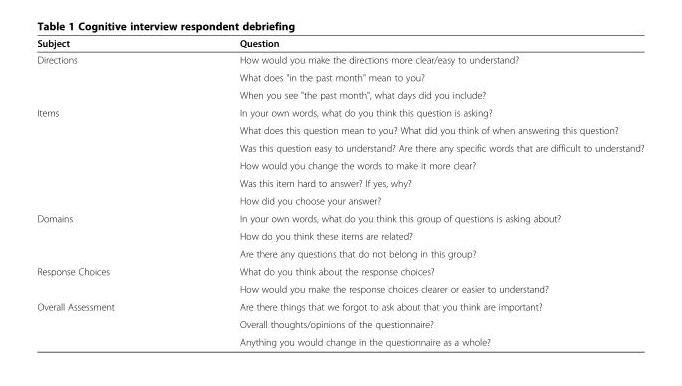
<table><thead><tr><td>Subject</td><td>Question</td></tr></thead><tbody><tr><td rowspan="3">Directions</td><td>How would you make the directions more clear/easy to understand?</td></tr><tr><td>What does &quot;in the past month&quot; mean to you?</td></tr><tr><td>When you see &quot;the past month&quot;, what days did you include?</td></tr><tr><td rowspan="6">Items</td><td>In your own words, what do you think this question is asking?</td></tr><tr><td>What does this question mean to you? What did you think of when answering this question?</td></tr><tr><td>Was this question easy to understand? Are there any specific words that are difficult to understand?</td></tr><tr><td>How would you change the words to make it more clear?</td></tr><tr><td>Was this item hard to answer? If yes, why?</td></tr><tr><td>How did you choose your answer?</td></tr><tr><td rowspan="3">Domains</td><td>In your own words, what do you think this group of questions is asking about?</td></tr><tr><td>How do you think these items are related?</td></tr><tr><td>Are there any questions that do not belong in this group?</td></tr><tr><td rowspan="2">Response Choices</td><td>What do you think about the response choices?</td></tr><tr><td>How would you make the response choices clearer or easier to understand?</td></tr><tr><td rowspan="3">Overall Assessment</td><td>Are there things that we forgot to ask about that you think are important?</td></tr><tr><td>Overall thoughts/opinions of the questionnaire?</td></tr><tr><td>Anything you would change in the questionnaire as a whole?</td></tr></tbody></table>